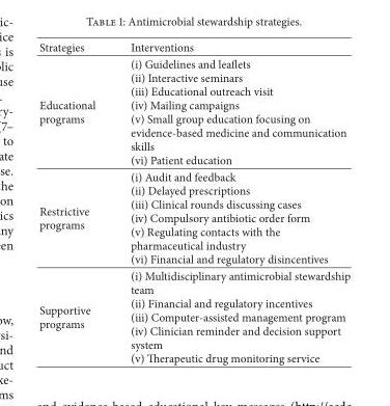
<table><thead><tr><td>Strategies</td><td>Interventions</td></tr></thead><tbody><tr><td>Educational programs</td><td>(i) Guidelines and leaflets (ii) Interactive seminars (iii) Educational outreach visit (iv) Mailing campaigns (v) Small group education focusing on evidence-based medicine and communication skills (vi) Patient education</td></tr><tr><td>Restrictive programs</td><td>(i) Audit and feedback (ii) Delayed prescriptions (iii) Clinical rounds discussing cases (iv) Compulsory antibiotic order form (v) Regulating contacts with the pharmaceutical industry (vi) Financial and regulatory disincentives</td></tr><tr><td>Supportive programs</td><td>(i) Multidisciplinary antimicrobial stewardship team (ii) Financial and regulatory incentives (iii) Computer-assisted management program (iv) Clinician reminder and decision support system (v) Therapeutic drug monitoring service</td></tr></tbody></table>